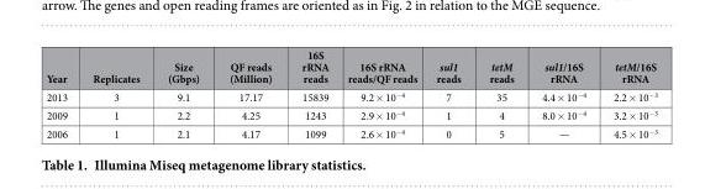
<table><thead><tr><td>Year</td><td>Replicates</td><td>Size (Gbps)</td><td>QF reads (Million)</td><td>16S rRNA reads</td><td>16S rRNA reads/QF reads</td><td>sul1 reads</td><td>tetM reads</td><td>sul1/16S rRNA</td><td>tetM/16S rRNA</td></tr></thead><tbody><tr><td>2013</td><td>3</td><td>9.1</td><td>17.17</td><td>15839</td><td>9.2 × 10<sup>−4</sup></td><td>7</td><td>35</td><td>4.4 × 10<sup>−4</sup></td><td>2.2 × 10<sup>−3</sup></td></tr><tr><td>2009</td><td>1</td><td>2.2</td><td>4.25</td><td>1243</td><td>2.9 × 10<sup>−4</sup></td><td>1</td><td>4</td><td>8.0 × 10<sup>−4</sup></td><td>3.2 × 10<sup>−3</sup></td></tr><tr><td>2006</td><td>1</td><td>2.1</td><td>4.17</td><td>1099</td><td>2.6 × 10<sup>−4</sup></td><td>0</td><td>5</td><td>—</td><td>4.5 × 10<sup>−3</sup></td></tr></tbody></table>